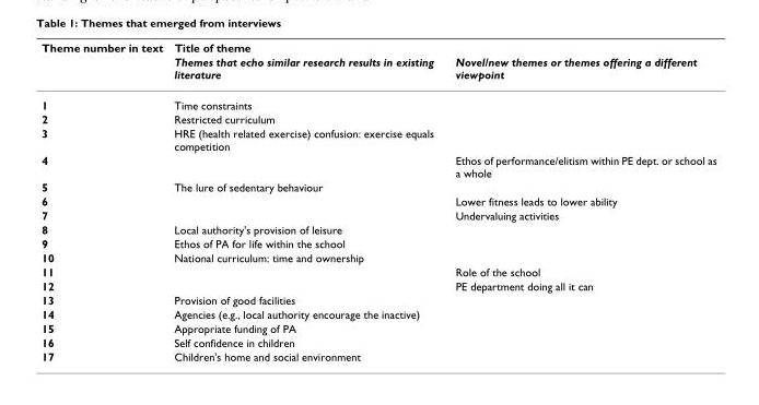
<table><thead><tr><td rowspan="2">Theme number in text</td><td colspan="2">Title of theme</td></tr><tr><td>Themes that echo similar research results in existing literature</td><td>Novel/new themes or themes offering a different viewpoint</td></tr></thead><tbody><tr><td>1</td><td>Time constraints</td><td></td></tr><tr><td>2</td><td>Restricted curriculum</td><td></td></tr><tr><td>3</td><td>HRE (health related exercise) confusion: exercise equals competition</td><td></td></tr><tr><td>4</td><td></td><td>Ethos of performance/elitism within PE dept. or school as a whole</td></tr><tr><td>5</td><td>The lure of sedentary behaviour</td><td></td></tr><tr><td>6</td><td></td><td>Lower fitness leads to lower ability</td></tr><tr><td>7</td><td></td><td>Undervaluing activities</td></tr><tr><td>8</td><td>Local authority&#x27;s provision of leisure</td><td></td></tr><tr><td>9</td><td>Ethos of PA for life within the school</td><td></td></tr><tr><td>10</td><td>National curriculum: time and ownership</td><td></td></tr><tr><td>11</td><td></td><td>Role of the school</td></tr><tr><td>12</td><td></td><td>PE department doing all it can</td></tr><tr><td>13</td><td>Provision of good facilities</td><td></td></tr><tr><td>14</td><td>Agencies (e.g., local authority encourage the inactive)</td><td></td></tr><tr><td>15</td><td>Appropriate funding of PA</td><td></td></tr><tr><td>16</td><td>Self confidence in children</td><td></td></tr><tr><td>17</td><td>Children&#x27;s home and social environment</td><td></td></tr></tbody></table>